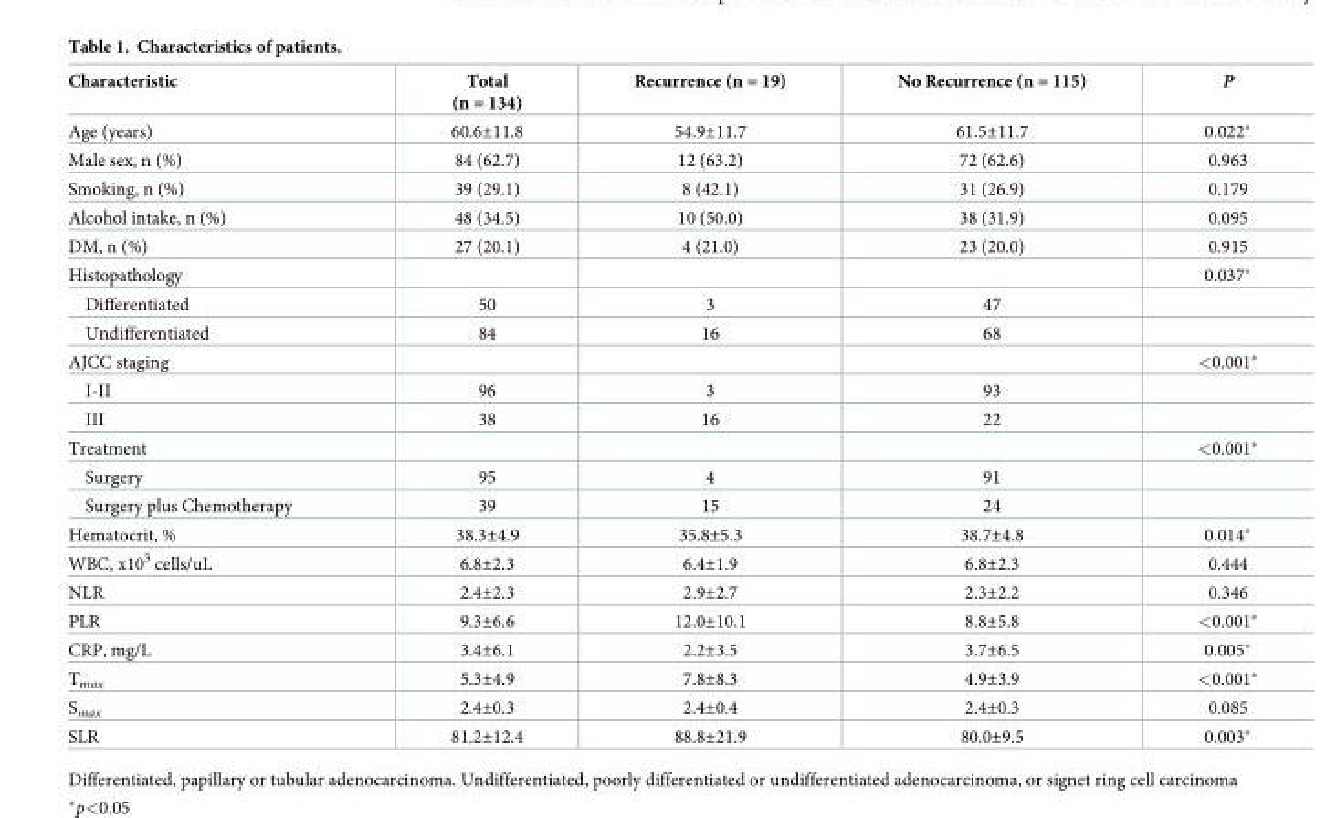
<table><thead><tr><td>Characteristic</td><td>Total (n = 134)</td><td>Recurrence (n = 19)</td><td>No Recurrence (n = 115)</td><td>P</td></tr></thead><tbody><tr><td>Age (years)</td><td>60.6±11.8</td><td>54.9±11.7</td><td>61.5±11.7</td><td>0.022*</td></tr><tr><td>Male sex, n (%)</td><td>84 (62.7)</td><td>12 (63.2)</td><td>72 (62.6)</td><td>0.963</td></tr><tr><td>Smoking, n (%)</td><td>39 (29.1)</td><td>8 (42.1)</td><td>31 (26.9)</td><td>0.179</td></tr><tr><td>Alcohol intake, n (%)</td><td>48 (34.5)</td><td>10 (50.0)</td><td>38 (31.9)</td><td>0.095</td></tr><tr><td>DM, n (%)</td><td>27 (20.1)</td><td>4 (21.0)</td><td>23 (20.0)</td><td>0.915</td></tr><tr><td>Histopathology</td><td></td><td></td><td></td><td>0.037*</td></tr><tr><td>Differentiated</td><td>50</td><td>3</td><td>47</td><td></td></tr><tr><td>Undifferentiated</td><td>84</td><td>16</td><td>68</td><td></td></tr><tr><td>AJCC staging</td><td></td><td></td><td></td><td>&lt;0.001*</td></tr><tr><td>I-II</td><td>96</td><td>3</td><td>93</td><td></td></tr><tr><td>III</td><td>38</td><td>16</td><td>22</td><td></td></tr><tr><td>Treatment</td><td></td><td></td><td></td><td>&lt;0.001*</td></tr><tr><td>Surgery</td><td>95</td><td>4</td><td>91</td><td></td></tr><tr><td>Surgery plus Chemotherapy</td><td>39</td><td>15</td><td>24</td><td></td></tr><tr><td>Hematocrit, %</td><td>38.3±4.9</td><td>35.8±5.3</td><td>38.7±4.8</td><td>0.014*</td></tr><tr><td>WBC, x10<sup>3</sup> cells/uL</td><td>6.8±2.3</td><td>6.4±1.9</td><td>6.8±2.3</td><td>0.444</td></tr><tr><td>NLR</td><td>2.4±2.3</td><td>2.9±2.7</td><td>2.3±2.2</td><td>0.346</td></tr><tr><td>PLR</td><td>9.3±6.6</td><td>12.0±10.1</td><td>8.8±5.8</td><td>&lt;0.001*</td></tr><tr><td>CRP, mg/L</td><td>3.4±6.1</td><td>2.2±3.5</td><td>3.7±6.5</td><td>0.005*</td></tr><tr><td>T<sub>max</sub></td><td>5.3±4.9</td><td>7.8±8.3</td><td>4.9±3.9</td><td>&lt;0.001*</td></tr><tr><td>S<sub>max</sub></td><td>2.4±0.3</td><td>2.4±0.4</td><td>2.4±0.3</td><td>0.085</td></tr><tr><td>SLR</td><td>81.2±12.4</td><td>88.8±21.9</td><td>80.0±9.5</td><td>0.003*</td></tr></tbody></table>